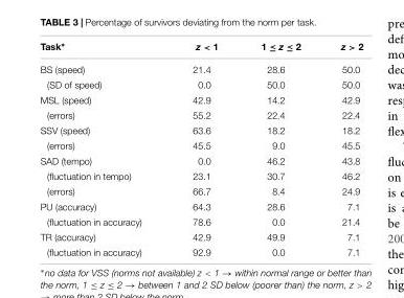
<table><thead><tr><td>Task∗</td><td>z &lt; 1</td><td>1 ≤ z ≤ 2</td><td>z &gt; 2</td></tr></thead><tbody><tr><td>BS (speed)</td><td>21.4</td><td>28.6</td><td>50.0</td></tr><tr><td>(SD of speed)</td><td>0.0</td><td>50.0</td><td>50.0</td></tr><tr><td>MSL (speed)</td><td>42.9</td><td>14.2</td><td>42.9</td></tr><tr><td>(errors)</td><td>55.2</td><td>22.4</td><td>22.4</td></tr><tr><td>SSV (speed)</td><td>63.6</td><td>18.2</td><td>18.2</td></tr><tr><td>(errors)</td><td>45.5</td><td>9.0</td><td>45.5</td></tr><tr><td>SAD (tempo)</td><td>0.0</td><td>46.2</td><td>43.8</td></tr><tr><td>(fluctuation in tempo)</td><td>23.1</td><td>30.7</td><td>46.2</td></tr><tr><td>(errors)</td><td>66.7</td><td>8.4</td><td>24.9</td></tr><tr><td>PU (accuracy)</td><td>64.3</td><td>28.6</td><td>7.1</td></tr><tr><td>(fluctuation in accuracy)</td><td>78.6</td><td>0.0</td><td>21.4</td></tr><tr><td>TR (accuracy)</td><td>42.9</td><td>49.9</td><td>7.1</td></tr><tr><td>(fluctuation in accuracy)</td><td>92.9</td><td>0.0</td><td>7.1</td></tr></tbody></table>